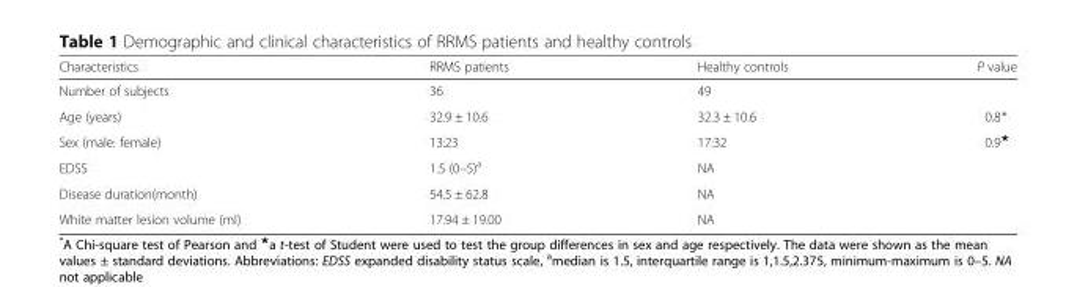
<table><thead><tr><td>Characteristics</td><td>RRMS patients</td><td>Healthy controls</td><td>P value</td></tr></thead><tbody><tr><td>Number of subjects</td><td>36</td><td>49</td><td></td></tr><tr><td>Age (years)</td><td>32.9 ± 10.6</td><td>32.3 ± 10.6</td><td>0.8*</td></tr><tr><td>Sex (male: female)</td><td>13:23</td><td>17:32</td><td>0.9<sup>★</sup></td></tr><tr><td>EDSS</td><td>1.5 (0–5)<sup>a</sup></td><td>NA</td><td></td></tr><tr><td>Disease duration(month)</td><td>54.5 ± 62.8</td><td>NA</td><td></td></tr><tr><td>White matter lesion volume (ml)</td><td>17.94 ± 19.00</td><td>NA</td><td></td></tr></tbody></table>